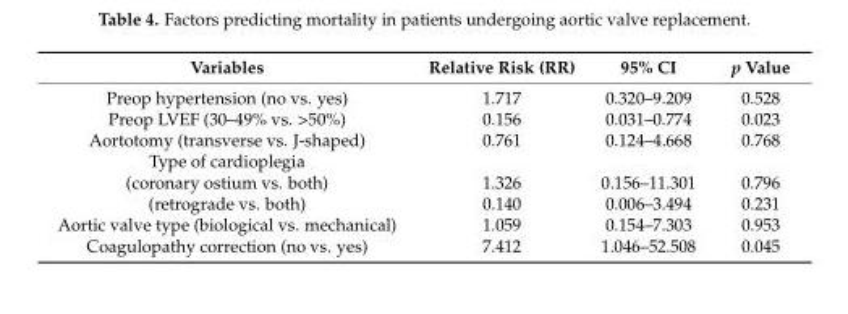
<table><thead><tr><td>Variables</td><td>Relative Risk (RR)</td><td>95% CI</td><td>p Value</td></tr></thead><tbody><tr><td>Preop hypertension (no vs. yes)</td><td>1.717</td><td>0.320–9.209</td><td>0.528</td></tr><tr><td>Preop LVEF (30–49% vs. &gt;50%)</td><td>0.156</td><td>0.031–0.774</td><td>0.023</td></tr><tr><td>Aortotomy (transverse vs. J-shaped)</td><td>0.761</td><td>0.124–4.668</td><td>0.768</td></tr><tr><td colspan="4">Type of cardioplegia</td></tr><tr><td>(coronary ostium vs. both)</td><td>1.326</td><td>0.156–11.301</td><td>0.796</td></tr><tr><td>(retrograde vs. both)</td><td>0.140</td><td>0.006–3.494</td><td>0.231</td></tr><tr><td>Aortic valve type (biological vs. mechanical)</td><td>1.059</td><td>0.154–7.303</td><td>0.953</td></tr><tr><td>Coagulopathy correction (no vs. yes)</td><td>7.412</td><td>1.046–52.508</td><td>0.045</td></tr></tbody></table>